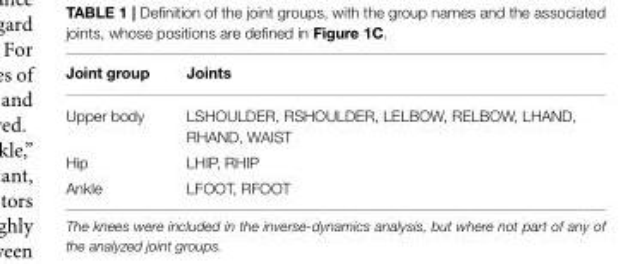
<table><thead><tr><td>Joint group</td><td>Joints</td></tr></thead><tbody><tr><td>Upper body</td><td>LSHOULDER, RSHOULDER, LELBOW, RELBOW, LHAND, RHAND, WAIST</td></tr><tr><td>Hip</td><td>LHIP, RHIP</td></tr><tr><td>Ankle</td><td>LFOOT, RFOOT</td></tr></tbody></table>